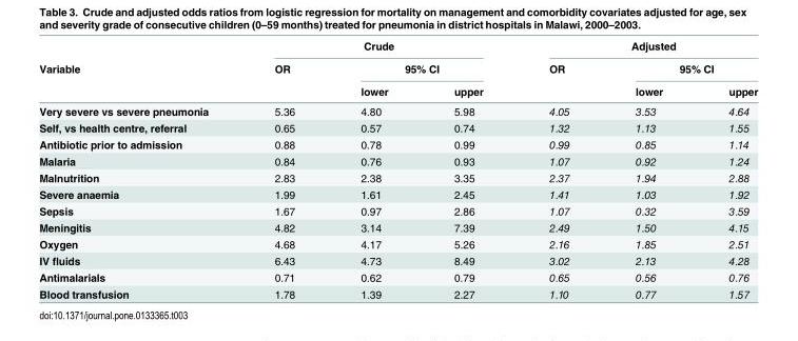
<table><thead><tr><td rowspan="3">Variable</td><td colspan="3">Crude</td><td colspan="3">Adjusted</td></tr><tr><td rowspan="2">OR</td><td colspan="2">95% CI</td><td rowspan="2">OR</td><td colspan="2">95% CI</td></tr><tr><td>lower</td><td>upper</td><td>lower</td><td>upper</td></tr></thead><tbody><tr><td>Very severe vs severe pneumonia</td><td>5.36</td><td>4.80</td><td>5.98</td><td>4.05</td><td>3.53</td><td>4.64</td></tr><tr><td>Self, vs health centre, referral</td><td>0.65</td><td>0.57</td><td>0.74</td><td>1.32</td><td>1.13</td><td>1.55</td></tr><tr><td>Antibiotic prior to admission</td><td>0.88</td><td>0.78</td><td>0.99</td><td>0.99</td><td>0.85</td><td>1.14</td></tr><tr><td>Malaria</td><td>0.84</td><td>0.76</td><td>0.93</td><td>1.07</td><td>0.92</td><td>1.24</td></tr><tr><td>Malnutrition</td><td>2.83</td><td>2.38</td><td>3.35</td><td>2.37</td><td>1.94</td><td>2.88</td></tr><tr><td>Severe anaemia</td><td>1.99</td><td>1.61</td><td>2.45</td><td>1.41</td><td>1.03</td><td>1.92</td></tr><tr><td>Sepsis</td><td>1.67</td><td>0.97</td><td>2.86</td><td>1.07</td><td>0.32</td><td>3.59</td></tr><tr><td>Meningitis</td><td>4.82</td><td>3.14</td><td>7.39</td><td>2.49</td><td>1.50</td><td>4.15</td></tr><tr><td>Oxygen</td><td>4.68</td><td>4.17</td><td>5.26</td><td>2.16</td><td>1.85</td><td>2.51</td></tr><tr><td>IV fluids</td><td>6.43</td><td>4.73</td><td>8.49</td><td>3.02</td><td>2.13</td><td>4.28</td></tr><tr><td>Antimalarials</td><td>0.71</td><td>0.62</td><td>0.79</td><td>0.65</td><td>0.56</td><td>0.76</td></tr><tr><td>Blood transfusion</td><td>1.78</td><td>1.39</td><td>2.27</td><td>1.10</td><td>0.77</td><td>1.57</td></tr></tbody></table>